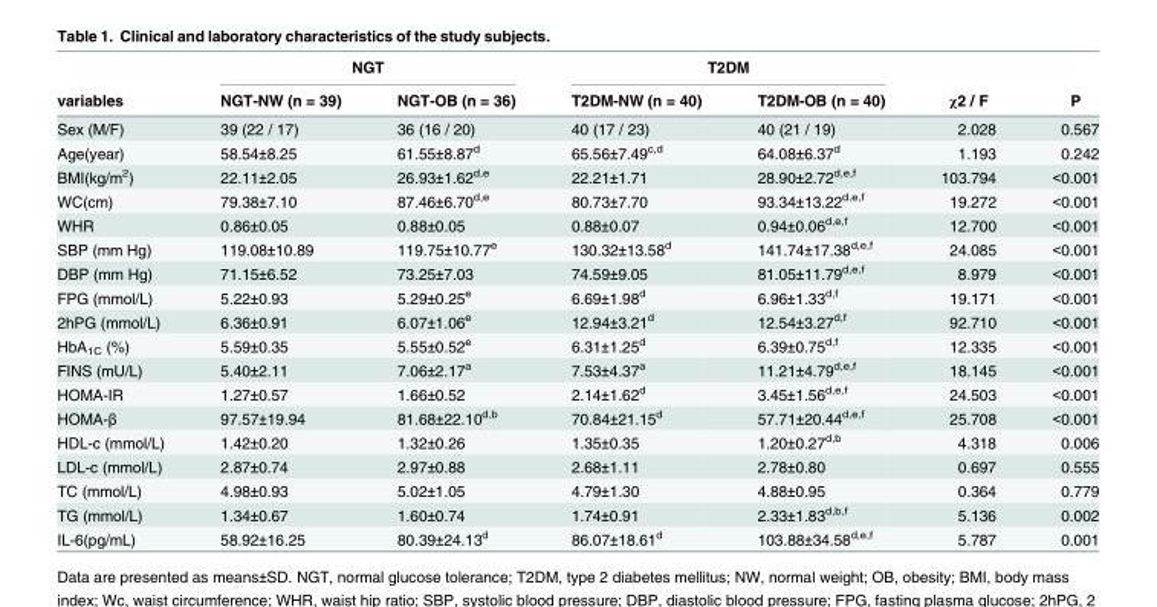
<table><thead><tr><td rowspan="2">variables</td><td colspan="2">NGT</td><td colspan="2">T2DM</td><td rowspan="2">χ2 / F</td><td rowspan="2">P</td></tr><tr><td>NGT-NW (n = 39)</td><td>NGT-OB (n = 36)</td><td>T2DM-NW (n = 40)</td><td>T2DM-OB (n = 40)</td></tr></thead><tbody><tr><td>Sex (M/F)</td><td>39 (22 / 17)</td><td>36 (16 / 20)</td><td>40 (17 / 23)</td><td>40 (21 / 19)</td><td>2.028</td><td>0.567</td></tr><tr><td>Age(year)</td><td>58.54±8.25</td><td>61.55±8.87<sup>d</sup></td><td>65.56±7.49<sup>c,d</sup></td><td>64.08±6.37<sup>d</sup></td><td>1.193</td><td>0.242</td></tr><tr><td>BMI(kg/m<sup>2</sup>)</td><td>22.11±2.05</td><td>26.93±1.62<sup>d,e</sup></td><td>22.21±1.71</td><td>28.90±2.72<sup>d,e,f</sup></td><td>103.794</td><td>&lt;0.001</td></tr><tr><td>WC(cm)</td><td>79.38±7.10</td><td>87.46±6.70<sup>d,e</sup></td><td>80.73±7.70</td><td>93.34±13.22<sup>d,e,f</sup></td><td>19.272</td><td>&lt;0.001</td></tr><tr><td>WHR</td><td>0.86±0.05</td><td>0.88±0.05</td><td>0.88±0.07</td><td>0.94±0.06<sup>d,e,f</sup></td><td>12.700</td><td>&lt;0.001</td></tr><tr><td>SBP (mm Hg)</td><td>119.08±10.89</td><td>119.75±10.77<sup>e</sup></td><td>130.32±13.58<sup>d</sup></td><td>141.74±17.38<sup>d,e,f</sup></td><td>24.085</td><td>&lt;0.001</td></tr><tr><td>DBP (mm Hg)</td><td>71.15±6.52</td><td>73.25±7.03</td><td>74.59±9.05</td><td>81.05±11.79<sup>d,e,f</sup></td><td>8.979</td><td>&lt;0.001</td></tr><tr><td>FPG (mmol/L)</td><td>5.22±0.93</td><td>5.29±0.25<sup>e</sup></td><td>6.69±1.98<sup>d</sup></td><td>6.96±1.33<sup>d,f</sup></td><td>19.171</td><td>&lt;0.001</td></tr><tr><td>2hPG (mmol/L)</td><td>6.36±0.91</td><td>6.07±1.06<sup>e</sup></td><td>12.94±3.21<sup>d</sup></td><td>12.54±3.27<sup>d,f</sup></td><td>92.710</td><td>&lt;0.001</td></tr><tr><td>HbA<sub>1C</sub> (%)</td><td>5.59±0.35</td><td>5.55±0.52<sup>e</sup></td><td>6.31±1.25<sup>d</sup></td><td>6.39±0.75<sup>d,f</sup></td><td>12.335</td><td>&lt;0.001</td></tr><tr><td>FINS (mU/L)</td><td>5.40±2.11</td><td>7.06±2.17<sup>a</sup></td><td>7.53±4.37<sup>a</sup></td><td>11.21±4.79<sup>d,e,f</sup></td><td>18.145</td><td>&lt;0.001</td></tr><tr><td>HOMA-IR</td><td>1.27±0.57</td><td>1.66±0.52</td><td>2.14±1.62<sup>d</sup></td><td>3.45±1.56<sup>d,e,f</sup></td><td>24.503</td><td>&lt;0.001</td></tr><tr><td>HOMA-β</td><td>97.57±19.94</td><td>81.68±22.10<sup>d,b</sup></td><td>70.84±21.15<sup>d</sup></td><td>57.71±20.44<sup>d,e,f</sup></td><td>25.708</td><td>&lt;0.001</td></tr><tr><td>HDL-c (mmol/L)</td><td>1.42±0.20</td><td>1.32±0.26</td><td>1.35±0.35</td><td>1.20±0.27<sup>d,b</sup></td><td>4.318</td><td>0.006</td></tr><tr><td>LDL-c (mmol/L)</td><td>2.87±0.74</td><td>2.97±0.88</td><td>2.68±1.11</td><td>2.78±0.80</td><td>0.697</td><td>0.555</td></tr><tr><td>TC (mmol/L)</td><td>4.98±0.93</td><td>5.02±1.05</td><td>4.79±1.30</td><td>4.88±0.95</td><td>0.364</td><td>0.779</td></tr><tr><td>TG (mmol/L)</td><td>1.34±0.67</td><td>1.60±0.74</td><td>1.74±0.91</td><td>2.33±1.83<sup>d,b,f</sup></td><td>5.136</td><td>0.002</td></tr><tr><td>IL-6(pg/mL)</td><td>58.92±16.25</td><td>80.39±24.13<sup>d</sup></td><td>86.07±18.61<sup>d</sup></td><td>103.88±34.58<sup>d,e,f</sup></td><td>5.787</td><td>0.001</td></tr></tbody></table>